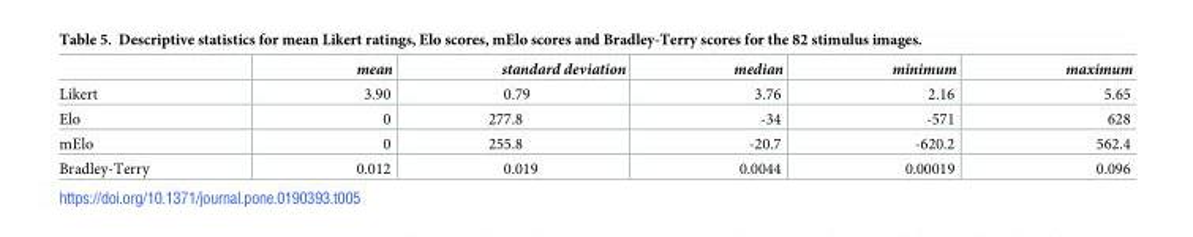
<table><thead><tr><td></td><td>mean</td><td>standard deviation</td><td>median</td><td>minimum</td><td>maximum</td></tr></thead><tbody><tr><td>Likert</td><td>3.90</td><td>0.79</td><td>3.76</td><td>2.16</td><td>5.65</td></tr><tr><td>Elo</td><td>0</td><td>277.8</td><td>-34</td><td>-571</td><td>628</td></tr><tr><td>mElo</td><td>0</td><td>255.8</td><td>-20.7</td><td>-620.2</td><td>562.4</td></tr><tr><td>Bradley-Terry</td><td>0.012</td><td>0.019</td><td>0.0044</td><td>0.00019</td><td>0.096</td></tr></tbody></table>